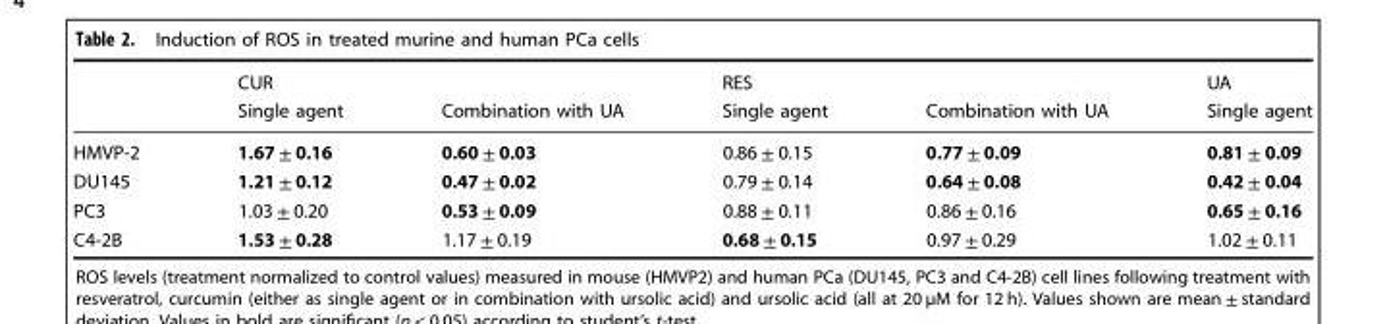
<table><thead><tr><td rowspan="2"></td><td rowspan="2">CUR Single agent</td><td rowspan="2">Combination with UA</td><td rowspan="2">RES Single agent</td><td rowspan="2">Combination with UA</td><td rowspan="2">UA Single agent</td></tr><tr></tr></thead><tbody><tr><td>HMVP-2</td><td>1.67 ± 0.16</td><td>0.60 ± 0.03</td><td>0.86 ± 0.15</td><td>0.77 ± 0.09</td><td>0.81 ± 0.09</td></tr><tr><td>DU145</td><td>1.21 ± 0.12</td><td>0.47 ± 0.02</td><td>0.79 ± 0.14</td><td>0.64 ± 0.08</td><td>0.42 ± 0.04</td></tr><tr><td>PC3</td><td>1.03 ± 0.20</td><td>0.53 ± 0.09</td><td>0.88 ± 0.11</td><td>0.86 ± 0.16</td><td>0.65 ± 0.16</td></tr><tr><td>C4-2B</td><td>1.53 ± 0.28</td><td>1.17 ± 0.19</td><td>0.68 ± 0.15</td><td>0.97 ± 0.29</td><td>1.02 ± 0.11</td></tr></tbody></table>